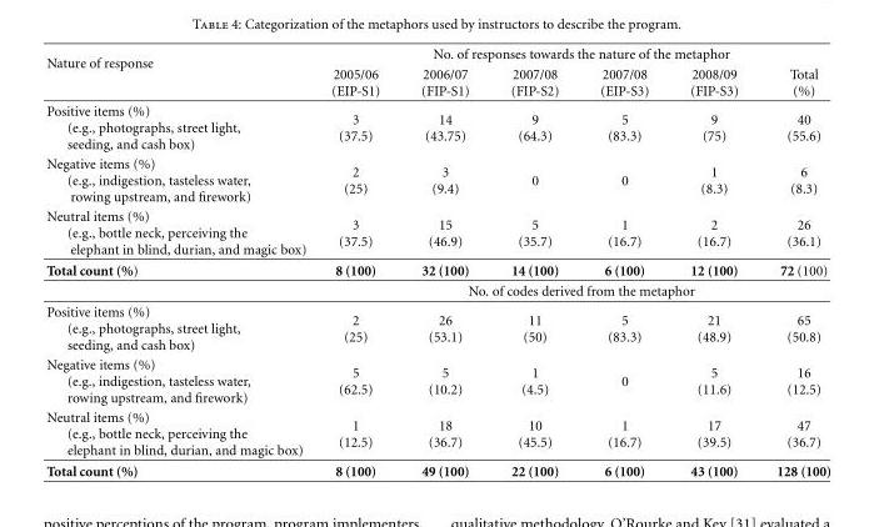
<table><thead><tr><td rowspan="2">Nature of response</td><td colspan="6">No. of responses towards the nature of the metaphor</td></tr><tr><td>2005/06 (EIP-S1)</td><td>2006/07 (FIP-S1)</td><td>2007/08 (FIP-S2)</td><td>2007/08 (EIP-S3)</td><td>2008/09 (FIP-S3)</td><td>Total (%)</td></tr></thead><tbody><tr><td>Positive items (%) (e.g., photographs, street light, seeding, and cash box)</td><td>3 (37.5)</td><td>14 (43.75)</td><td>9 (64.3)</td><td>5 (83.3)</td><td>9 (75)</td><td>40 (55.6)</td></tr><tr><td>Negative items (%) (e.g., indigestion, tasteless water, rowing upstream, and firework)</td><td>2 (25)</td><td>3 (9.4)</td><td>0</td><td>0</td><td>1 (8.3)</td><td>6 (8.3)</td></tr><tr><td>Neutral items (%) (e.g., bottle neck, perceiving the elephant in blind, durian, and magic box)</td><td>3 (37.5)</td><td>15 (46.9)</td><td>5 (35.7)</td><td>1 (16.7)</td><td>2 (16.7)</td><td>26 (36.1)</td></tr><tr><td rowspan="2">Total count (%)</td><td>8 (100)</td><td>32 (100)</td><td>14 (100)</td><td>6 (100)</td><td>12 (100)</td><td>72 (100)</td></tr><tr><td colspan="6">No. of codes derived from the metaphor</td></tr><tr><td>Positive items (%) (e.g., photographs, street light, seeding, and cash box)</td><td>2 (25)</td><td>26 (53.1)</td><td>11 (50)</td><td>5 (83.3)</td><td>21 (48.9)</td><td>65 (50.8)</td></tr><tr><td>Negative items (%) (e.g., indigestion, tasteless water, rowing upstream, and firework)</td><td>5 (62.5)</td><td>5 (10.2)</td><td>1 (4.5)</td><td>0</td><td>5 (11.6)</td><td>16 (12.5)</td></tr><tr><td>Neutral items (%) (e.g., bottle neck, perceiving the elephant in blind, durian, and magic box)</td><td>1 (12.5)</td><td>18 (36.7)</td><td>10 (45.5)</td><td>1 (16.7)</td><td>17 (39.5)</td><td>47 (36.7)</td></tr><tr><td>Total count (%)</td><td>8 (100)</td><td>49 (100)</td><td>22 (100)</td><td>6 (100)</td><td>43 (100)</td><td>128 (100)</td></tr></tbody></table>